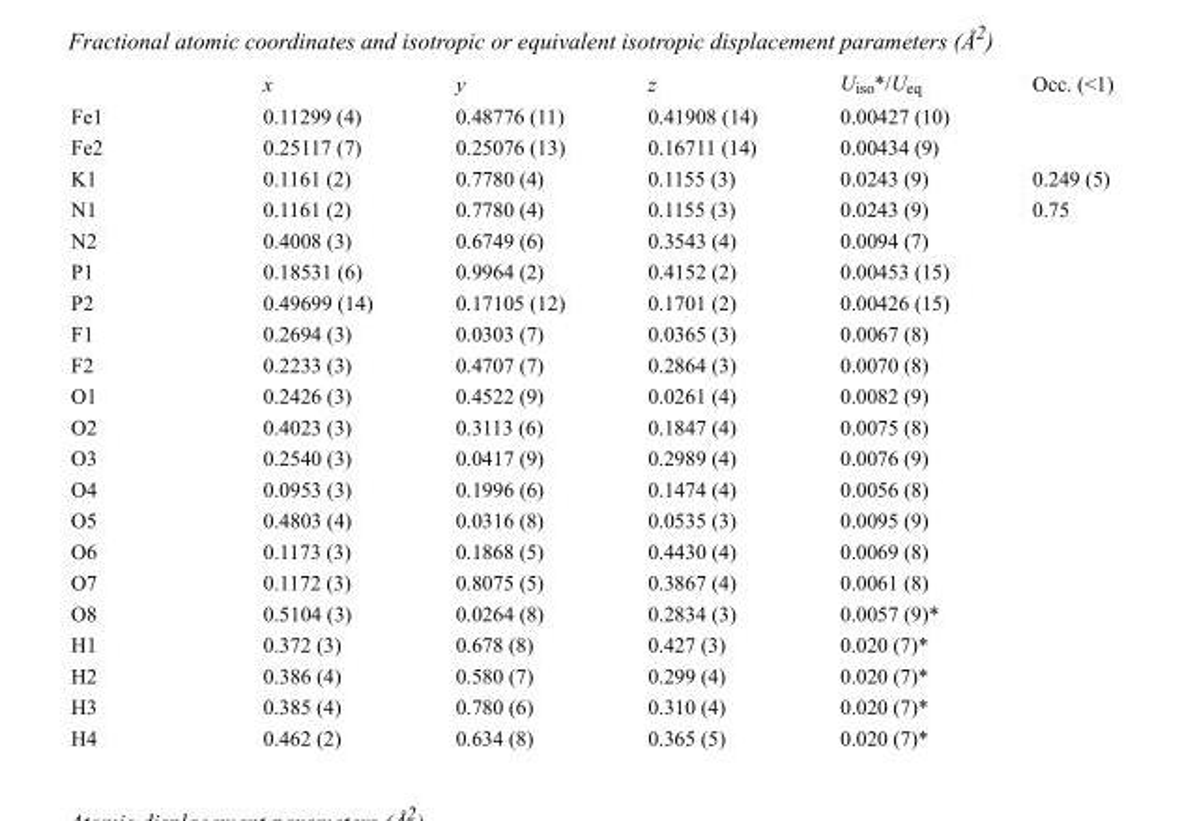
<table><thead><tr><td></td><td>x</td><td>y</td><td>z</td><td>U<sub>iso</sub>*/U<sub>eq</sub></td><td>Occ. (&lt;1)</td></tr></thead><tbody><tr><td>Fe1</td><td>0.11299 (4)</td><td>0.48776 (11)</td><td>0.41908 (14)</td><td>0.00427 (10)</td><td></td></tr><tr><td>Fe2</td><td>0.25117 (7)</td><td>0.25076 (13)</td><td>0.16711 (14)</td><td>0.00434 (9)</td><td></td></tr><tr><td>K1</td><td>0.1161 (2)</td><td>0.7780 (4)</td><td>0.1155 (3)</td><td>0.0243 (9)</td><td>0.249 (5)</td></tr><tr><td>N1</td><td>0.1161 (2)</td><td>0.7780 (4)</td><td>0.1155 (3)</td><td>0.0243 (9)</td><td>0.75</td></tr><tr><td>N2</td><td>0.4008 (3)</td><td>0.6749 (6)</td><td>0.3543 (4)</td><td>0.0094 (7)</td><td></td></tr><tr><td>P1</td><td>0.18531 (6)</td><td>0.9964 (2)</td><td>0.4152 (2)</td><td>0.00453 (15)</td><td></td></tr><tr><td>P2</td><td>0.49699 (14)</td><td>0.17105 (12)</td><td>0.1701 (2)</td><td>0.00426 (15)</td><td></td></tr><tr><td>F1</td><td>0.2694 (3)</td><td>0.0303 (7)</td><td>0.0365 (3)</td><td>0.0067 (8)</td><td></td></tr><tr><td>F2</td><td>0.2233 (3)</td><td>0.4707 (7)</td><td>0.2864 (3)</td><td>0.0070 (8)</td><td></td></tr><tr><td>O1</td><td>0.2426 (3)</td><td>0.4522 (9)</td><td>0.0261 (4)</td><td>0.0082 (9)</td><td></td></tr><tr><td>O2</td><td>0.4023 (3)</td><td>0.3113 (6)</td><td>0.1847 (4)</td><td>0.0075 (8)</td><td></td></tr><tr><td>O3</td><td>0.2540 (3)</td><td>0.0417 (9)</td><td>0.2989 (4)</td><td>0.0076 (9)</td><td></td></tr><tr><td>O4</td><td>0.0953 (3)</td><td>0.1996 (6)</td><td>0.1474 (4)</td><td>0.0056 (8)</td><td></td></tr><tr><td>O5</td><td>0.4803 (4)</td><td>0.0316 (8)</td><td>0.0535 (3)</td><td>0.0095 (9)</td><td></td></tr><tr><td>O6</td><td>0.1173 (3)</td><td>0.1868 (5)</td><td>0.4430 (4)</td><td>0.0069 (8)</td><td></td></tr><tr><td>O7</td><td>0.1172 (3)</td><td>0.8075 (5)</td><td>0.3867 (4)</td><td>0.0061 (8)</td><td></td></tr><tr><td>O8</td><td>0.5104 (3)</td><td>0.0264 (8)</td><td>0.2834 (3)</td><td>0.0057 (9)*</td><td></td></tr><tr><td>H1</td><td>0.372 (3)</td><td>0.678 (8)</td><td>0.427 (3)</td><td>0.020 (7)*</td><td></td></tr><tr><td>H2</td><td>0.386 (4)</td><td>0.580 (7)</td><td>0.299 (4)</td><td>0.020 (7)*</td><td></td></tr><tr><td>H3</td><td>0.385 (4)</td><td>0.780 (6)</td><td>0.310 (4)</td><td>0.020 (7)*</td><td></td></tr><tr><td>H4</td><td>0.462 (2)</td><td>0.634 (8)</td><td>0.365 (5)</td><td>0.020 (7)*</td><td></td></tr></tbody></table>